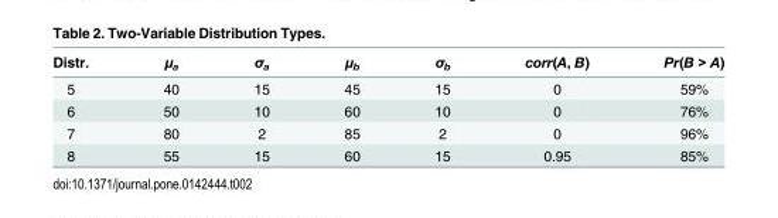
<table><thead><tr><td>Distr.</td><td>μ<sub>a</sub></td><td>σ<sub>a</sub></td><td>μ<sub>b</sub></td><td>σ<sub>b</sub></td><td>corr(A, B)</td><td>Pr(B &gt; A)</td></tr></thead><tbody><tr><td>5</td><td>40</td><td>15</td><td>45</td><td>15</td><td>0</td><td>59%</td></tr><tr><td>6</td><td>50</td><td>10</td><td>60</td><td>10</td><td>0</td><td>76%</td></tr><tr><td>7</td><td>80</td><td>2</td><td>85</td><td>2</td><td>0</td><td>96%</td></tr><tr><td>8</td><td>55</td><td>15</td><td>60</td><td>15</td><td>0.95</td><td>85%</td></tr></tbody></table>